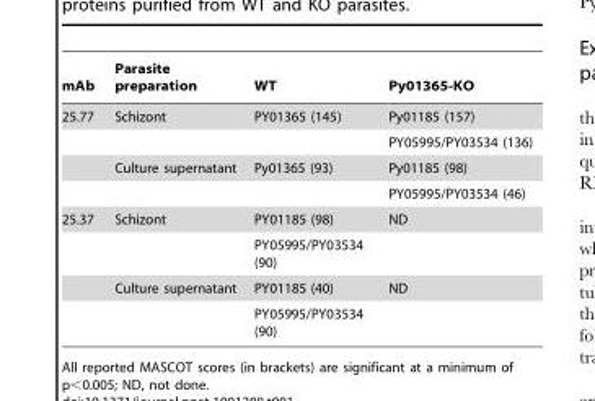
<table><thead><tr><td>mAb</td><td>Parasite preparation</td><td>WT</td><td>Py01365-KO</td></tr></thead><tbody><tr><td rowspan="4">25.77</td><td>Schizont</td><td>PY01365 (145)</td><td>Py01185 (157)</td></tr><tr><td></td><td></td><td>PY05995/PY03534 (136)</td></tr><tr><td>Culture supernatant</td><td>Py01365 (93)</td><td>Py01185 (98)</td></tr><tr><td></td><td></td><td>PY05995/PY03534 (46)</td></tr><tr><td rowspan="4">25.37</td><td>Schizont</td><td>PY01185 (98)</td><td>ND</td></tr><tr><td></td><td>PY05995/PY03534 (90)</td><td></td></tr><tr><td>Culture supernatant</td><td>PY01185 (40)</td><td>ND</td></tr><tr><td></td><td>PY05995/PY03534 (90)</td><td></td></tr></tbody></table>